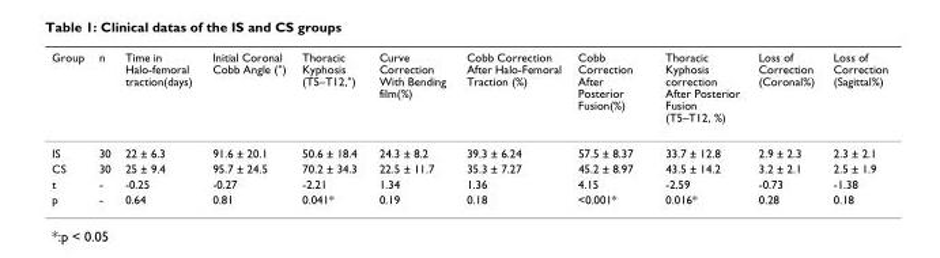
<table><thead><tr><td>Group</td><td>n</td><td>Time in Halo-femoral traction(days)</td><td>Initial Coronal Cobb Angle (°)</td><td>Thoracic Kyphosis (T5–T12,°)</td><td>Curve Correction With Bending film(%)</td><td>Cobb Correction After Halo-Femoral Traction (%)</td><td>Cobb Correction After Posterior Fusion(%)</td><td>Thoracic Kyphosis correction After Posterior Fusion (T5–T12, %)</td><td>Loss of Correction (Coronal%)</td><td>Loss of Correction (Sagittal%)</td></tr></thead><tbody><tr><td>IS</td><td>30</td><td>22 ± 6.3</td><td>91.6 ± 20.1</td><td>50.6 ± 18.4</td><td>24.3 ± 8.2</td><td>39.3 ± 6.24</td><td>57.5 ± 8.37</td><td>33.7 ± 12.8</td><td>2.9 ± 2.3</td><td>2.3 ± 2.1</td></tr><tr><td>CS</td><td>30</td><td>25 ± 9.4</td><td>95.7 ± 24.5</td><td>70.2 ± 34.3</td><td>22.5 ± 11.7</td><td>35.3 ± 7.27</td><td>45.2 ± 8.97</td><td>43.5 ± 14.2</td><td>3.2 ± 2.1</td><td>2.5 ± 1.9</td></tr><tr><td>t</td><td>-</td><td>-0.25</td><td>-0.27</td><td>-2.21</td><td>1.34</td><td>1.36</td><td>4.15</td><td>-2.59</td><td>-0.73</td><td>-1.38</td></tr><tr><td>p</td><td>-</td><td>0.64</td><td>0.81</td><td>0.041*</td><td>0.19</td><td>0.18</td><td>&lt;0.001*</td><td>0.016*</td><td>0.28</td><td>0.18</td></tr></tbody></table>